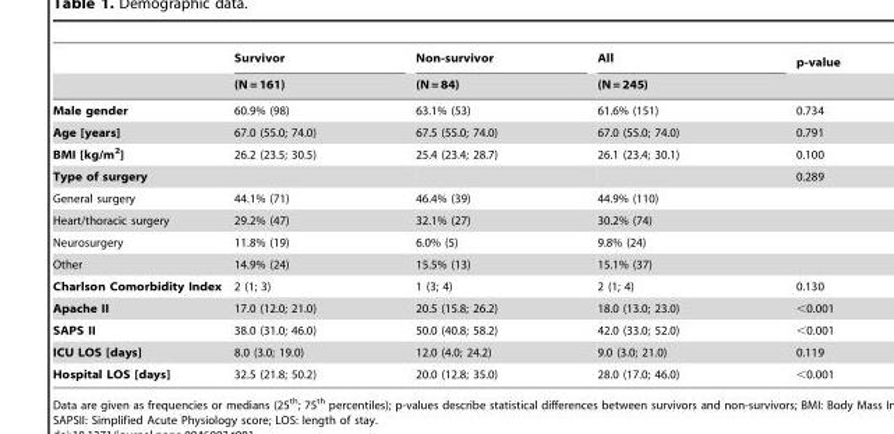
<table><thead><tr><td rowspan="2"></td><td rowspan="2">Survivor (N = 161)</td><td rowspan="2">Non-survivor (N = 84)</td><td rowspan="2">All (N = 245)</td><td rowspan="2">p-value</td></tr><tr></tr></thead><tbody><tr><td>Male gender</td><td>60.9% (98)</td><td>63.1% (53)</td><td>61.6% (151)</td><td>0.734</td></tr><tr><td>Age [years]</td><td>67.0 (55.0; 74.0)</td><td>67.5 (55.0; 74.0)</td><td>67.0 (55.0; 74.0)</td><td>0.791</td></tr><tr><td>BMI [kg/m<sup>2</sup>]</td><td>26.2 (23.5; 30.5)</td><td>25.4 (23.4; 28.7)</td><td>26.1 (23.4; 30.1)</td><td>0.100</td></tr><tr><td>Type of surgery</td><td></td><td></td><td></td><td>0.289</td></tr><tr><td>General surgery</td><td>44.1% (71)</td><td>46.4% (39)</td><td>44.9% (110)</td><td></td></tr><tr><td>Heart/thoracic surgery</td><td>29.2% (47)</td><td>32.1% (27)</td><td>30.2% (74)</td><td></td></tr><tr><td>Neurosurgery</td><td>11.8% (19)</td><td>6.0% (5)</td><td>9.8% (24)</td><td></td></tr><tr><td>Other</td><td>14.9% (24)</td><td>15.5% (13)</td><td>15.1% (37)</td><td></td></tr><tr><td>Charlson Comorbidity Index</td><td>2 (1; 3)</td><td>1 (3; 4)</td><td>2 (1; 4)</td><td>0.130</td></tr><tr><td>Apache II</td><td>17.0 (12.0; 21.0)</td><td>20.5 (15.8; 26.2)</td><td>18.0 (13.0; 23.0)</td><td>&lt;0.001</td></tr><tr><td>SAPS II</td><td>38.0 (31.0; 46.0)</td><td>50.0 (40.8; 58.2)</td><td>42.0 (33.0; 52.0)</td><td>&lt;0.001</td></tr><tr><td>ICU LOS [days]</td><td>8.0 (3.0; 19.0)</td><td>12.0 (4.0; 24.2)</td><td>9.0 (3.0; 21.0)</td><td>0.119</td></tr><tr><td>Hospital LOS [days]</td><td>32.5 (21.8; 50.2)</td><td>20.0 (12.8; 35.0)</td><td>28.0 (17.0; 46.0)</td><td>&lt;0.001</td></tr></tbody></table>